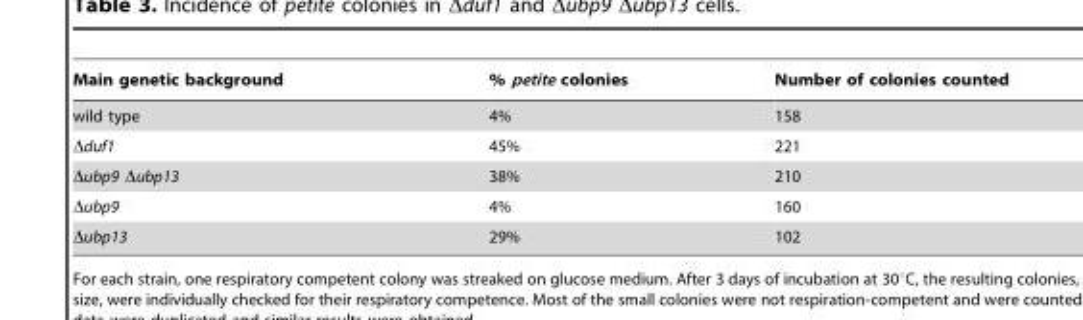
<table><thead><tr><td>Main genetic background</td><td>% petite colonies</td><td>Number of colonies counted</td></tr></thead><tbody><tr><td>wild type</td><td>4%</td><td>158</td></tr><tr><td>Δduf1</td><td>45%</td><td>221</td></tr><tr><td>Δubp9 Δubp13</td><td>38%</td><td>210</td></tr><tr><td>Δubp9</td><td>4%</td><td>160</td></tr><tr><td>Δubp13</td><td>29%</td><td>102</td></tr></tbody></table>